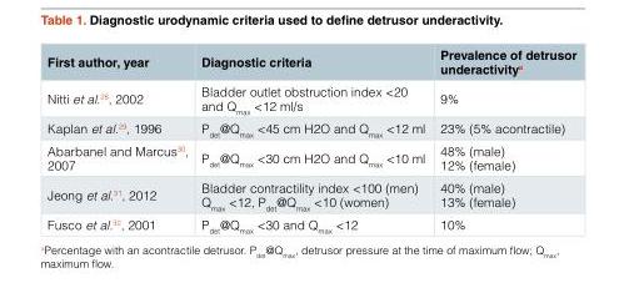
<table><thead><tr><td>First author, year</td><td>Diagnostic criteria</td><td>Prevalence of detrusor underactivity<sup>a</sup></td></tr></thead><tbody><tr><td>Nitti et al.<sup>28</sup>, 2002</td><td>Bladder outlet obstruction index &lt;20 and Q<sub>max</sub> &lt;12 ml/s</td><td>9%</td></tr><tr><td>Kaplan et al.<sup>29</sup>, 1996</td><td>P<sub>det</sub>@Q<sub>max</sub> &lt;45 cm H2O and Q<sub>max</sub> &lt;12 ml</td><td>23% (5% acontractile)</td></tr><tr><td>Abarbanel and Marcus<sup>30</sup>, 2007</td><td>P<sub>det</sub>@Q<sub>max</sub> &lt;30 cm H2O and Q<sub>max</sub> &lt;10 ml</td><td>48% (male) 12% (female)</td></tr><tr><td>Jeong et al.<sup>31</sup>, 2012</td><td>Bladder contractility index &lt;100 (men) Q<sub>max</sub> &lt;12, P<sub>det</sub>@Q<sub>max</sub> &lt;10 (women)</td><td>40% (male) 13% (female)</td></tr><tr><td>Fusco et al.<sup>32</sup>, 2001</td><td>P<sub>det</sub>@Q<sub>max</sub> &lt;30 and Q<sub>max</sub> &lt;12</td><td>10%</td></tr></tbody></table>